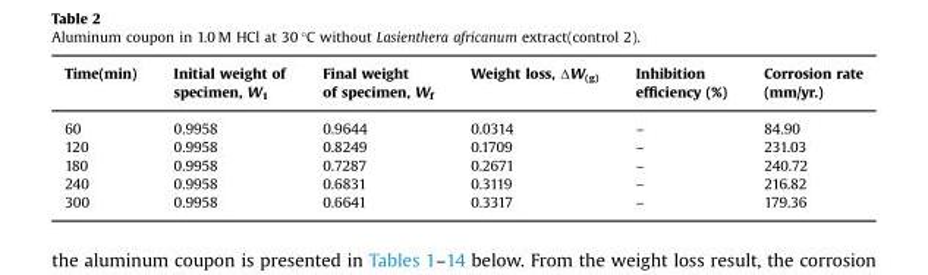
<table><thead><tr><td>Time(min)</td><td>Initial weight of specimen, W<sub>1</sub></td><td>Final weight of specimen, W<sub>f</sub></td><td>Weight loss, ΔW(g)</td><td>Inhibition efficiency (%)</td><td>Corrosion rate (mm/yr.)</td></tr></thead><tbody><tr><td>60</td><td>0.9958</td><td>0.9644</td><td>0.0314</td><td>–</td><td>84.90</td></tr><tr><td>120</td><td>0.9958</td><td>0.8249</td><td>0.1709</td><td>–</td><td>231.03</td></tr><tr><td>180</td><td>0.9958</td><td>0.7287</td><td>0.2671</td><td>–</td><td>240.72</td></tr><tr><td>240</td><td>0.9958</td><td>0.6831</td><td>0.3119</td><td>–</td><td>216.82</td></tr><tr><td>300</td><td>0.9958</td><td>0.6641</td><td>0.3317</td><td>–</td><td>179.36</td></tr></tbody></table>